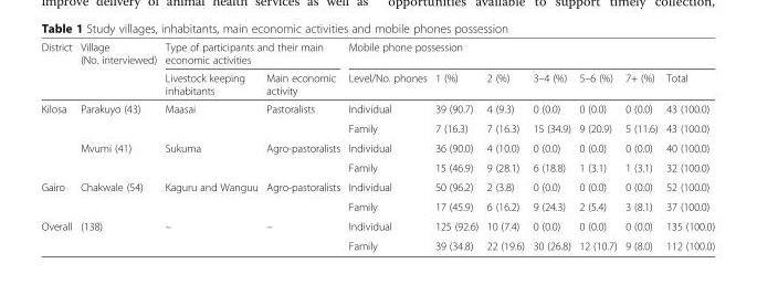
<table><thead><tr><td rowspan="2">District</td><td rowspan="2">Village (No. interviewed)</td><td colspan="2">Type of participants and their main economic activities</td><td colspan="7">Mobile phone possession</td></tr><tr><td>Livestock keeping inhabitants</td><td>Main economic activity</td><td>Level/No. phones</td><td>1 (%)</td><td>2 (%)</td><td>3–4 (%)</td><td>5–6 (%)</td><td>7+ (%)</td><td>Total</td></tr></thead><tbody><tr><td rowspan="4">Kilosa</td><td rowspan="2">Parakuyo (43)</td><td rowspan="2">Maasai</td><td rowspan="2">Pastoralists</td><td>Individual</td><td>39 (90.7)</td><td>4 (9.3)</td><td>0 (0.0)</td><td>0 (0.0)</td><td>0 (0.0)</td><td>43 (100.0)</td></tr><tr><td>Family</td><td>7 (16.3)</td><td>7 (16.3)</td><td>15 (34.9)</td><td>9 (20.9)</td><td>5 (11.6)</td><td>43 (100.0)</td></tr><tr><td rowspan="2">Mvumi (41)</td><td rowspan="2">Sukuma</td><td rowspan="2">Agro-pastoralists</td><td>Individual</td><td>36 (90.0)</td><td>4 (10.0)</td><td>0 (0.0)</td><td>0 (0.0)</td><td>0 (0.0)</td><td>40 (100.0)</td></tr><tr><td>Family</td><td>15 (46.9)</td><td>9 (28.1)</td><td>6 (18.8)</td><td>1 (3.1)</td><td>1 (3.1)</td><td>32 (100.0)</td></tr><tr><td rowspan="2">Gairo</td><td rowspan="2">Chakwale (54)</td><td rowspan="2">Kaguru and Wanguu</td><td rowspan="2">Agro-pastoralists</td><td>Individual</td><td>50 (96.2)</td><td>2 (3.8)</td><td>0 (0.0)</td><td>0 (0.0)</td><td>0 (0.0)</td><td>52 (100.0)</td></tr><tr><td>Family</td><td>17 (45.9)</td><td>6 (16.2)</td><td>9 (24.3)</td><td>2 (5.4)</td><td>3 (8.1)</td><td>37 (100.0)</td></tr><tr><td rowspan="2">Overall</td><td rowspan="2">(138)</td><td rowspan="2">–</td><td rowspan="2">–</td><td>Individual</td><td>125 (92.6)</td><td>10 (7.4)</td><td>0 (0.0)</td><td>0 (0.0)</td><td>0 (0.0)</td><td>135 (100.0)</td></tr><tr><td>Family</td><td>39 (34.8)</td><td>22 (19.6)</td><td>30 (26.8)</td><td>12 (10.7)</td><td>9 (8.0)</td><td>112 (100.0)</td></tr></tbody></table>